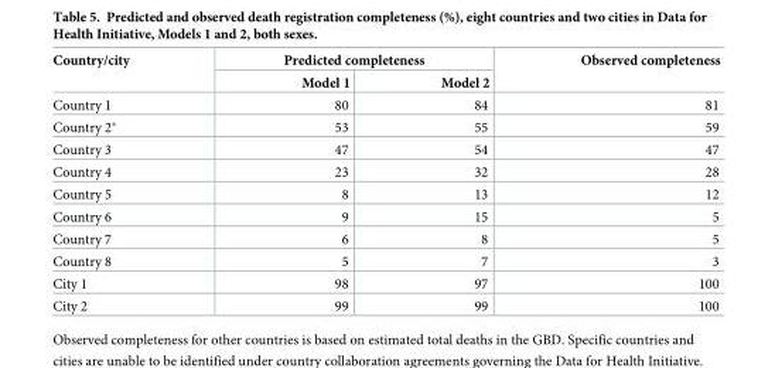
<table><thead><tr><td rowspan="2">Country/city</td><td colspan="2">Predicted completeness</td><td rowspan="2">Observed completeness</td></tr><tr><td>Model 1</td><td>Model 2</td></tr></thead><tbody><tr><td>Country 1</td><td>80</td><td>84</td><td>81</td></tr><tr><td>Country 2*</td><td>53</td><td>55</td><td>59</td></tr><tr><td>Country 3</td><td>47</td><td>54</td><td>47</td></tr><tr><td>Country 4</td><td>23</td><td>32</td><td>28</td></tr><tr><td>Country 5</td><td>8</td><td>13</td><td>12</td></tr><tr><td>Country 6</td><td>9</td><td>15</td><td>5</td></tr><tr><td>Country 7</td><td>6</td><td>8</td><td>5</td></tr><tr><td>Country 8</td><td>5</td><td>7</td><td>3</td></tr><tr><td>City 1</td><td>98</td><td>97</td><td>100</td></tr><tr><td>City 2</td><td>99</td><td>99</td><td>100</td></tr></tbody></table>